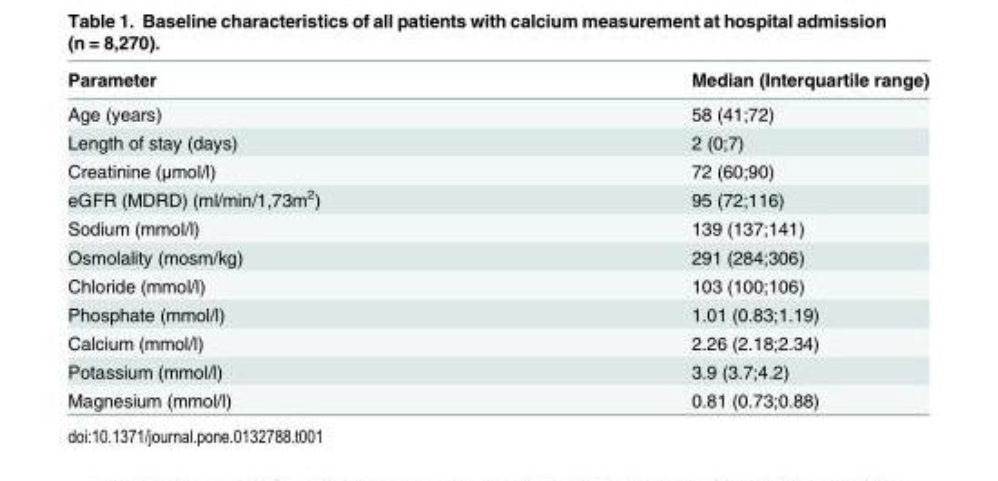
<table><thead><tr><td>Parameter</td><td>Median (Interquartile range)</td></tr></thead><tbody><tr><td>Age (years)</td><td>58 (41;72)</td></tr><tr><td>Length of stay (days)</td><td>2 (0;7)</td></tr><tr><td>Creatinine (μmol/l)</td><td>72 (60;90)</td></tr><tr><td>eGFR (MDRD) (ml/min/1,73m<sup>2</sup>)</td><td>95 (72;116)</td></tr><tr><td>Sodium (mmol/l)</td><td>139 (137;141)</td></tr><tr><td>Osmolality (mosm/kg)</td><td>291 (284;306)</td></tr><tr><td>Chloride (mmol/l)</td><td>103 (100;106)</td></tr><tr><td>Phosphate (mmol/l)</td><td>1.01 (0.83;1.19)</td></tr><tr><td>Calcium (mmol/l)</td><td>2.26 (2.18;2.34)</td></tr><tr><td>Potassium (mmol/l)</td><td>3.9 (3.7;4.2)</td></tr><tr><td>Magnesium (mmol/l)</td><td>0.81 (0.73;0.88)</td></tr></tbody></table>